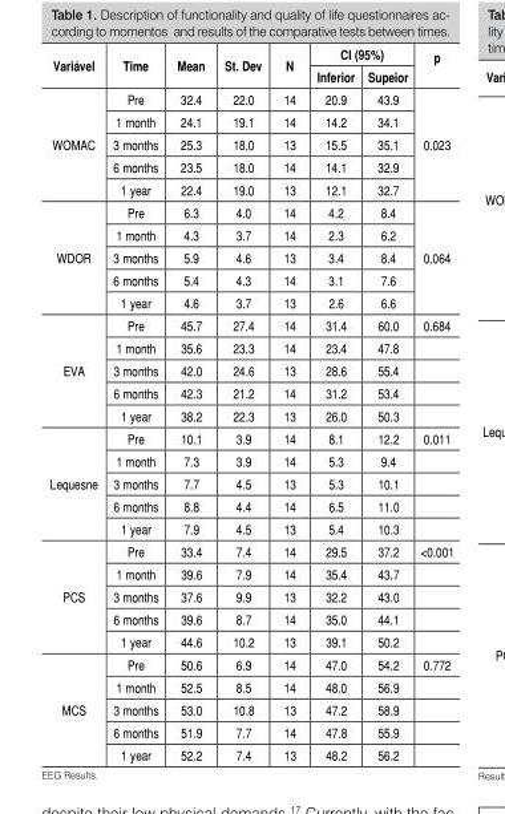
<table><thead><tr><td rowspan="2">Variável</td><td rowspan="2">Time</td><td rowspan="2">Mean</td><td rowspan="2">St. Dev</td><td rowspan="2">N</td><td colspan="2">CI (95%)</td><td rowspan="2">p</td></tr><tr><td>Inferior</td><td>Supeior</td></tr></thead><tbody><tr><td rowspan="5">WOMAC</td><td>Pre</td><td>32.4</td><td>22.0</td><td>14</td><td>20.9</td><td>43.9</td><td rowspan="5">0.023</td></tr><tr><td>1 month</td><td>24.1</td><td>19.1</td><td>14</td><td>14.2</td><td>34.1</td></tr><tr><td>3 months</td><td>25.3</td><td>18.0</td><td>13</td><td>15.5</td><td>35.1</td></tr><tr><td>6 months</td><td>23.5</td><td>18.0</td><td>14</td><td>14.1</td><td>32.9</td></tr><tr><td>1 year</td><td>22.4</td><td>19.0</td><td>13</td><td>12.1</td><td>32.7</td></tr><tr><td rowspan="5">WDOR</td><td>Pre</td><td>6.3</td><td>4.0</td><td>14</td><td>4.2</td><td>8.4</td><td rowspan="5">0.064</td></tr><tr><td>1 month</td><td>4.3</td><td>3.7</td><td>14</td><td>2.3</td><td>6.2</td></tr><tr><td>3 months</td><td>5.9</td><td>4.6</td><td>13</td><td>3.4</td><td>8.4</td></tr><tr><td>6 months</td><td>5.4</td><td>4.3</td><td>14</td><td>3.1</td><td>7.6</td></tr><tr><td>1 year</td><td>4.6</td><td>3.7</td><td>13</td><td>2.6</td><td>6.6</td></tr><tr><td rowspan="5">EVA</td><td>Pre</td><td>45.7</td><td>27.4</td><td>14</td><td>31.4</td><td>60.0</td><td>0.684</td></tr><tr><td>1 month</td><td>35.6</td><td>23.3</td><td>14</td><td>23.4</td><td>47.8</td><td></td></tr><tr><td>3 months</td><td>42.0</td><td>24.6</td><td>13</td><td>28.6</td><td>55.4</td><td></td></tr><tr><td>6 months</td><td>42.3</td><td>21.2</td><td>14</td><td>31.2</td><td>53.4</td><td></td></tr><tr><td>1 year</td><td>38.2</td><td>22.3</td><td>13</td><td>26.0</td><td>50.3</td><td></td></tr><tr><td rowspan="5">Lequesne</td><td>Pre</td><td>10.1</td><td>3.9</td><td>14</td><td>8.1</td><td>12.2</td><td>0.011</td></tr><tr><td>1 month</td><td>7.3</td><td>3.9</td><td>14</td><td>5.3</td><td>9.4</td><td></td></tr><tr><td>3 months</td><td>7.7</td><td>4.5</td><td>13</td><td>5.3</td><td>10.1</td><td></td></tr><tr><td>6 months</td><td>8.8</td><td>4.4</td><td>14</td><td>6.5</td><td>11.0</td><td></td></tr><tr><td>1 year</td><td>7.9</td><td>4.5</td><td>13</td><td>5.4</td><td>10.3</td><td></td></tr><tr><td rowspan="5">PCS</td><td>Pre</td><td>33.4</td><td>7.4</td><td>14</td><td>29.5</td><td>37.2</td><td>&lt;0.001</td></tr><tr><td>1 month</td><td>39.6</td><td>7.9</td><td>14</td><td>35.4</td><td>43.7</td><td></td></tr><tr><td>3 months</td><td>37.6</td><td>9.9</td><td>13</td><td>32.2</td><td>43.0</td><td></td></tr><tr><td>6 months</td><td>39.6</td><td>8.7</td><td>14</td><td>35.0</td><td>44.1</td><td></td></tr><tr><td>1 year</td><td>44.6</td><td>10.2</td><td>13</td><td>39.1</td><td>50.2</td><td></td></tr><tr><td rowspan="5">MCS</td><td>Pre</td><td>50.6</td><td>6.9</td><td>14</td><td>47.0</td><td>54.2</td><td>0.772</td></tr><tr><td>1 month</td><td>52.5</td><td>8.5</td><td>14</td><td>48.0</td><td>56.9</td><td></td></tr><tr><td>3 months</td><td>53.0</td><td>10.8</td><td>13</td><td>47.2</td><td>58.9</td><td></td></tr><tr><td>6 months</td><td>51.9</td><td>7.7</td><td>14</td><td>47.8</td><td>55.9</td><td></td></tr><tr><td>1 year</td><td>52.2</td><td>7.4</td><td>13</td><td>48.2</td><td>56.2</td><td></td></tr></tbody></table>